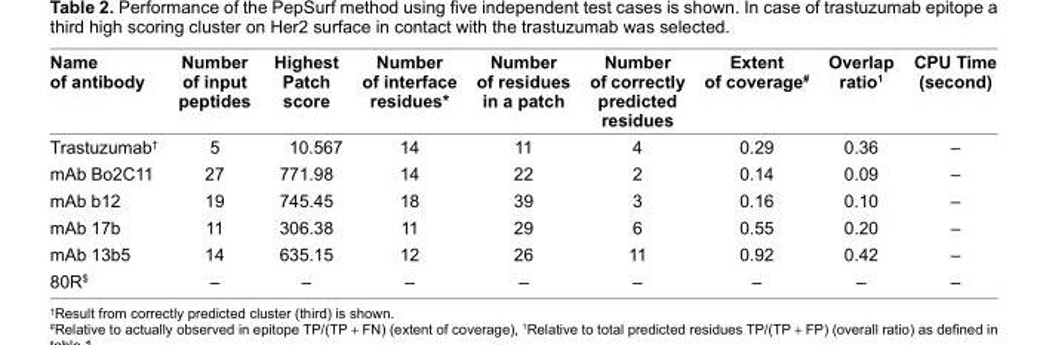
<table><thead><tr><td>name of antibody</td><td>number of input peptides</td><td>Highest patch score</td><td>number of interface residues*</td><td>number of residues in a patch</td><td>number of correctly predicted residues</td><td>extent of coverage#</td><td>Overlap ratio<sup>1</sup></td><td>cpU Time (second)</td></tr></thead><tbody><tr><td>Trastuzumab†</td><td>5</td><td>10.567</td><td>14</td><td>11</td><td>4</td><td>0.29</td><td>0.36</td><td>–</td></tr><tr><td>mAb Bo2C11</td><td>27</td><td>771.98</td><td>14</td><td>22</td><td>2</td><td>0.14</td><td>0.09</td><td>–</td></tr><tr><td>mAb b12</td><td>19</td><td>745.45</td><td>18</td><td>39</td><td>3</td><td>0.16</td><td>0.10</td><td>–</td></tr><tr><td>mAb 17b</td><td>11</td><td>306.38</td><td>11</td><td>29</td><td>6</td><td>0.55</td><td>0.20</td><td>–</td></tr><tr><td>mAb 13b5</td><td>14</td><td>635.15</td><td>12</td><td>26</td><td>11</td><td>0.92</td><td>0.42</td><td>–</td></tr><tr><td>80r$</td><td>–</td><td>–</td><td>–</td><td>–</td><td>–</td><td>–</td><td>–</td><td>–</td></tr></tbody></table>